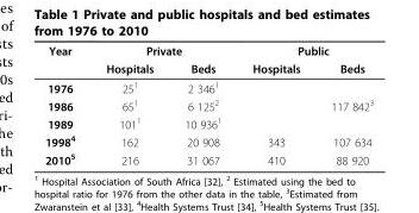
<table><thead><tr><td rowspan="2">Year</td><td colspan="2">Private</td><td colspan="2">Public</td></tr><tr><td>Hospitals</td><td>Beds</td><td>Hospitals</td><td>Beds</td></tr></thead><tbody><tr><td>1976</td><td>25<sup>1</sup></td><td>2 346<sup>1</sup></td><td></td><td></td></tr><tr><td>1986</td><td>65<sup>1</sup></td><td>6 125<sup>2</sup></td><td></td><td>117 842<sup>3</sup></td></tr><tr><td>1989</td><td>101<sup>1</sup></td><td>10 936<sup>1</sup></td><td></td><td></td></tr><tr><td>1998<sup>4</sup></td><td>162</td><td>20 908</td><td>343</td><td>107 634</td></tr><tr><td>2010<sup>5</sup></td><td>216</td><td>31 067</td><td>410</td><td>88 920</td></tr></tbody></table>